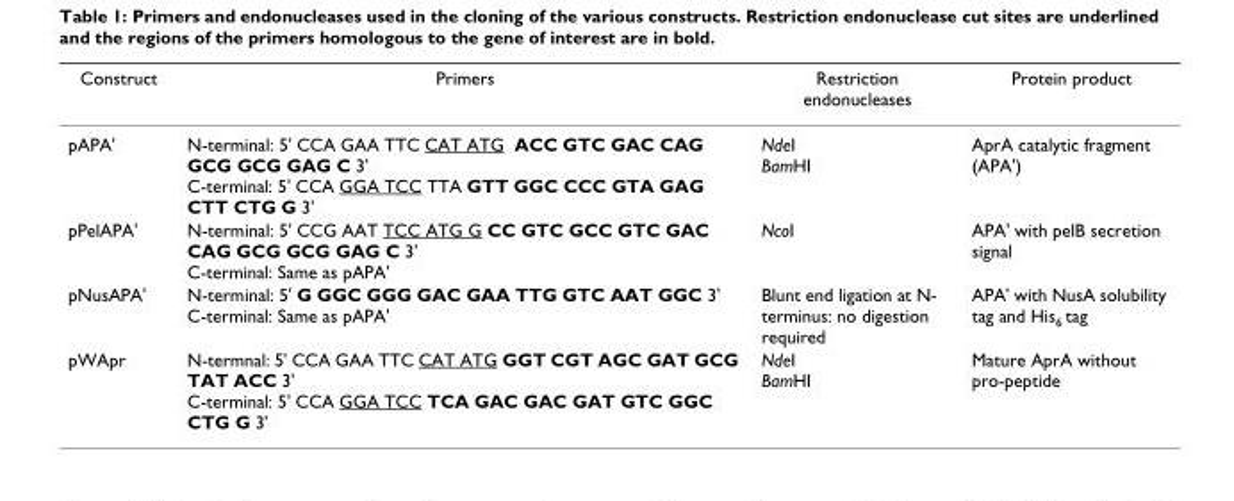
<table><thead><tr><td>Construct</td><td>Primers</td><td>Restriction endonucleases</td><td>Protein product</td></tr></thead><tbody><tr><td>pAPA&#x27;</td><td>N-terminal: 5&#x27; CCA GAA TTC CAT ATG ACC GTC GAC CAG GCG GCG GAG C 3&#x27; C-terminal: 5&#x27; CCA GGA TCC TTA GTT GGC CCC GTA GAG CTT CTG G 3&#x27;</td><td>NdeI BamHI</td><td>AprA catalytic fragment (APA&#x27;)</td></tr><tr><td>pPelAPA&#x27;</td><td>N-terminal: 5&#x27; CCG AAT TCC ATG G CC GTC GCC GTC GAC CAG GCG GCG GAG C 3&#x27; C-terminal: Same as pAPA&#x27;</td><td>NcoI</td><td>APA&#x27; with pelB secretion signal</td></tr><tr><td>pNusAPA&#x27;</td><td>N-terminal: 5&#x27; G GGC GGG GAC GAA TTG GTC AAT GGC 3&#x27; C-terminal: Same as pAPA&#x27;</td><td>Blunt end ligation at N- terminus: no digestion required</td><td>APA&#x27; with NusA solubility tag and His<sub>6</sub> tag</td></tr><tr><td>pWApr</td><td>N-termnal: 5&#x27; CCA GAA TTC CAT ATG GGT CGT AGC GAT GCG TAT ACC 3&#x27; C-terminal: 5&#x27; CCA GGA TCC TCA GAC GAC GAT GTC GGC CTG G 3&#x27;</td><td>NdeI BamHI</td><td>Mature AprA without pro-peptide</td></tr></tbody></table>